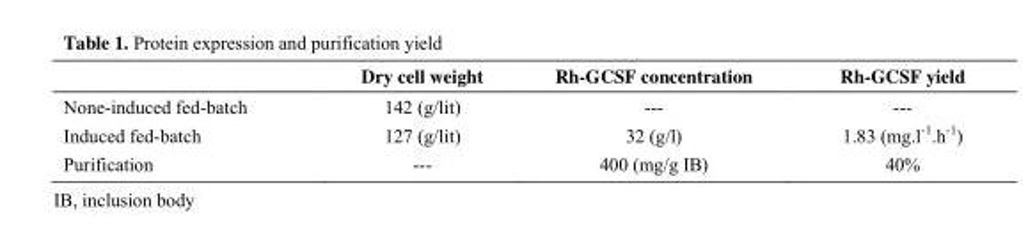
<table><thead><tr><td></td><td>Dry cell weight</td><td>Rh-GCSF concentration</td><td>Rh-GCSF yield</td></tr></thead><tbody><tr><td>None-induced fed-batch</td><td>142 (g/lit)</td><td>---</td><td>---</td></tr><tr><td>Induced fed-batch</td><td>127 (g/lit)</td><td>32 (g/l)</td><td>1.83 (mg.l<sup>-1</sup>.h<sup>-1</sup>)</td></tr><tr><td>Purification</td><td>---</td><td>400 (mg/g IB)</td><td>40%</td></tr></tbody></table>